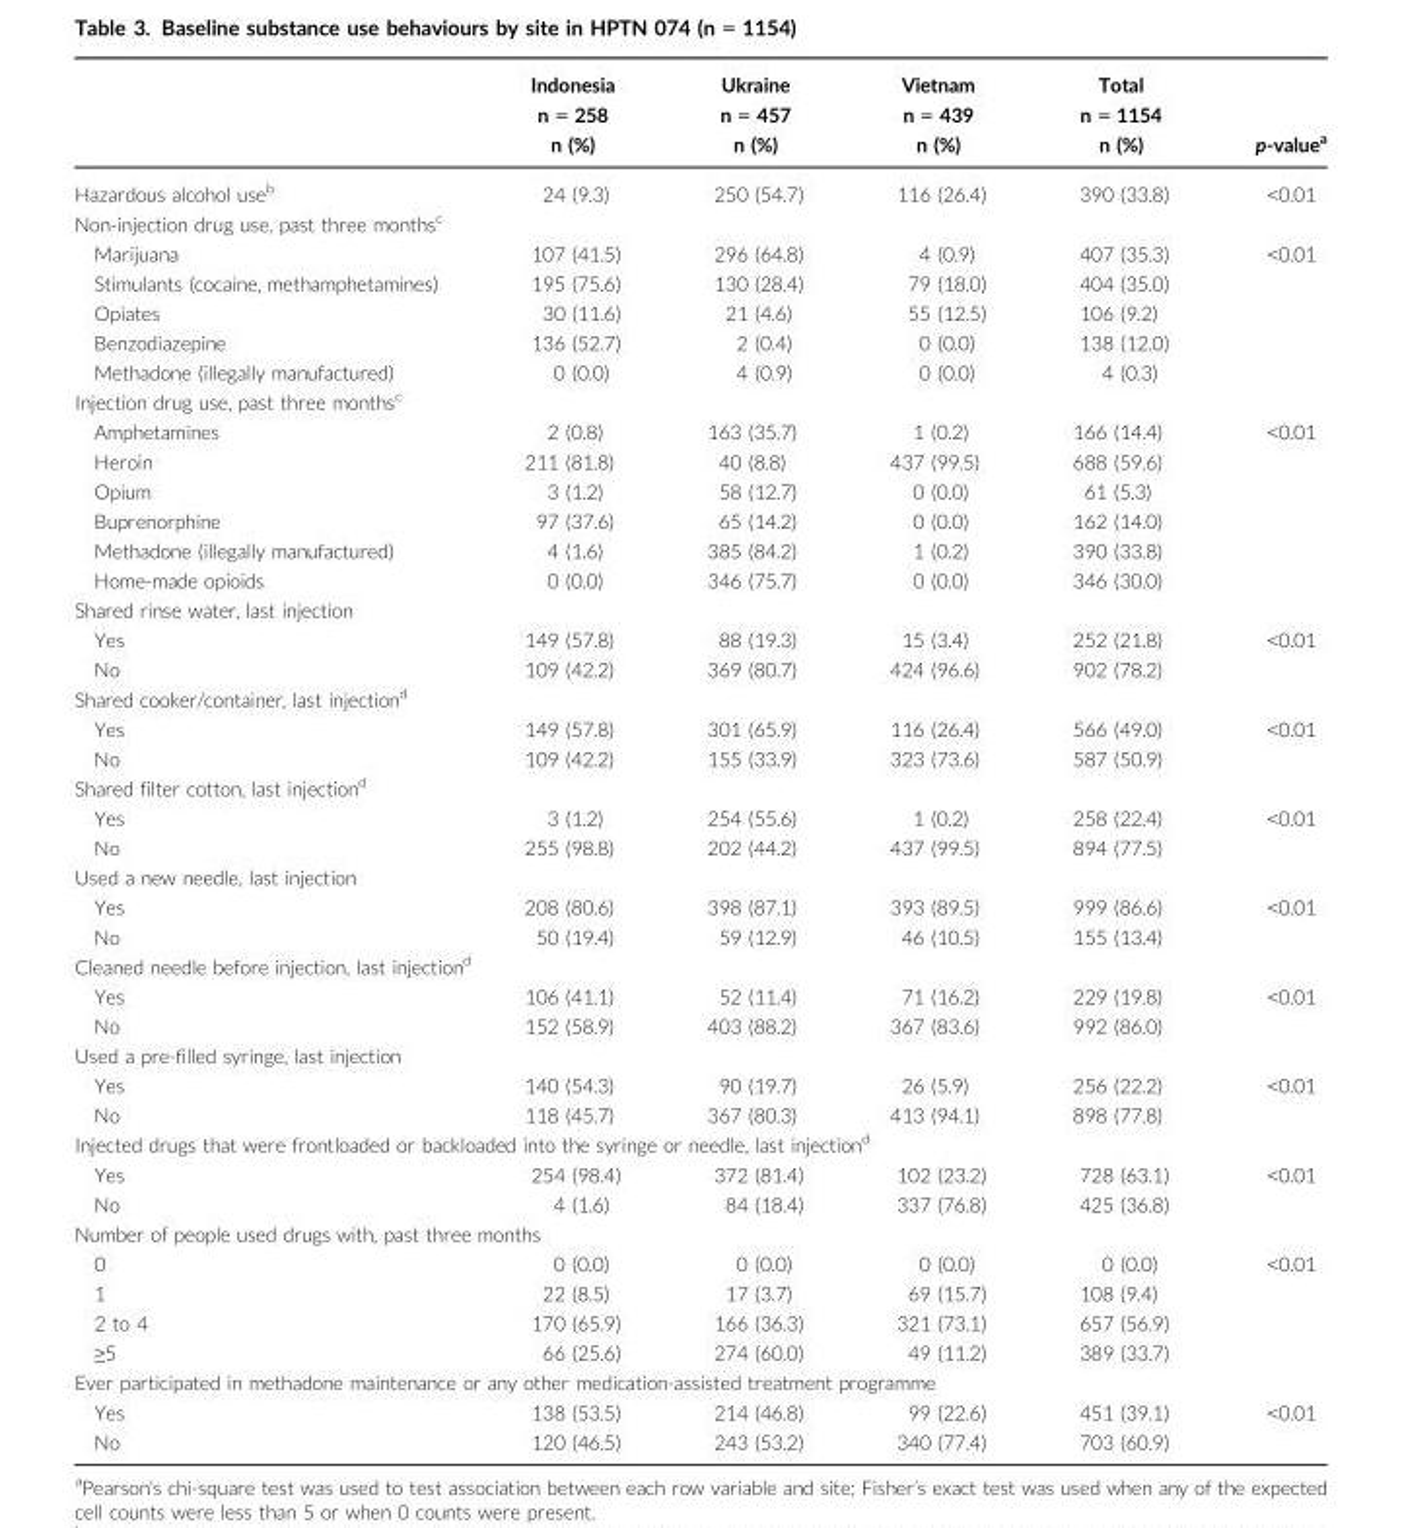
<table><thead><tr><td rowspan="2"></td><td rowspan="2">Indonesia n = 258 n (%)</td><td rowspan="2">Ukraine n = 457 n (%)</td><td rowspan="2">Vietnam n = 439 n (%)</td><td rowspan="2">Total n = 1154 n (%)</td><td rowspan="2">p-value<sup>a</sup></td></tr><tr></tr></thead><tbody><tr><td>Hazardous alcohol use<sup>b</sup></td><td>24 (9.3)</td><td>250 (54.7)</td><td>116 (26.4)</td><td>390 (33.8)</td><td>&lt;0.01</td></tr><tr><td colspan="6">Non-injection drug use, past three months<sup>c</sup></td></tr><tr><td>Marijuana</td><td>107 (41.5)</td><td>296 (64.8)</td><td>4 (0.9)</td><td>407 (35.3)</td><td rowspan="5">&lt;0.01</td></tr><tr><td>Stimulants (cocaine, methamphetamines)</td><td>195 (75.6)</td><td>130 (28.4)</td><td>79 (18.0)</td><td>404 (35.0)</td></tr><tr><td>Opiates</td><td>30 (11.6)</td><td>21 (4.6)</td><td>55 (12.5)</td><td>106 (9.2)</td></tr><tr><td>Benzodiazepine</td><td>136 (52.7)</td><td>2 (0.4)</td><td>0 (0.0)</td><td>138 (12.0)</td></tr><tr><td>Methadone (illegally manufactured)</td><td>0 (0.0)</td><td>4 (0.9)</td><td>0 (0.0)</td><td>4 (0.3)</td></tr><tr><td colspan="6">Injection drug use, past three months<sup>c</sup></td></tr><tr><td>Amphetamines</td><td>2 (0.8)</td><td>163 (35.7)</td><td>1 (0.2)</td><td>166 (14.4)</td><td rowspan="6">&lt;0.01</td></tr><tr><td>Heroin</td><td>211 (81.8)</td><td>40 (8.8)</td><td>437 (99.5)</td><td>688 (59.6)</td></tr><tr><td>Opium</td><td>3 (1.2)</td><td>58 (12.7)</td><td>0 (0.0)</td><td>61 (5.3)</td></tr><tr><td>Buprenorphine</td><td>97 (37.6)</td><td>65 (14.2)</td><td>0 (0.0)</td><td>162 (14.0)</td></tr><tr><td>Methadone (illegally manufactured)</td><td>4 (1.6)</td><td>385 (84.2)</td><td>1 (0.2)</td><td>390 (33.8)</td></tr><tr><td>Home-made opioids</td><td>0 (0.0)</td><td>346 (75.7)</td><td>0 (0.0)</td><td>346 (30.0)</td></tr><tr><td colspan="6">Shared rinse water, last injection</td></tr><tr><td>Yes</td><td>149 (57.8)</td><td>88 (19.3)</td><td>15 (3.4)</td><td>252 (21.8)</td><td rowspan="2">&lt;0.01</td></tr><tr><td>No</td><td>109 (42.2)</td><td>369 (80.7)</td><td>424 (96.6)</td><td>902 (78.2)</td></tr><tr><td colspan="6">Shared cooker/container, last injection<sup>d</sup></td></tr><tr><td>Yes</td><td>149 (57.8)</td><td>301 (65.9)</td><td>116 (26.4)</td><td>566 (49.0)</td><td rowspan="2">&lt;0.01</td></tr><tr><td>No</td><td>109 (42.2)</td><td>155 (33.9)</td><td>323 (73.6)</td><td>587 (50.9)</td></tr><tr><td colspan="6">Shared filter cotton, last injection<sup>d</sup></td></tr><tr><td>Yes</td><td>3 (1.2)</td><td>254 (55.6)</td><td>1 (0.2)</td><td>258 (22.4)</td><td rowspan="2">&lt;0.01</td></tr><tr><td>No</td><td>255 (98.8)</td><td>202 (44.2)</td><td>437 (99.5)</td><td>894 (77.5)</td></tr><tr><td colspan="6">Used a new needle, last injection</td></tr><tr><td>Yes</td><td>208 (80.6)</td><td>398 (87.1)</td><td>393 (89.5)</td><td>999 (86.6)</td><td rowspan="2">&lt;0.01</td></tr><tr><td>No</td><td>50 (19.4)</td><td>59 (12.9)</td><td>46 (10.5)</td><td>155 (13.4)</td></tr><tr><td colspan="6">Cleaned needle before injection, last injection<sup>d</sup></td></tr><tr><td>Yes</td><td>106 (41.1)</td><td>52 (11.4)</td><td>71 (16.2)</td><td>229 (19.8)</td><td rowspan="2">&lt;0.01</td></tr><tr><td>No</td><td>152 (58.9)</td><td>403 (88.2)</td><td>367 (83.6)</td><td>992 (86.0)</td></tr><tr><td colspan="6">Used a pre-filled syringe, last injection</td></tr><tr><td>Yes</td><td>140 (54.3)</td><td>90 (19.7)</td><td>26 (5.9)</td><td>256 (22.2)</td><td rowspan="2">&lt;0.01</td></tr><tr><td>No</td><td>118 (45.7)</td><td>367 (80.3)</td><td>413 (94.1)</td><td>898 (77.8)</td></tr><tr><td colspan="6">Injected drugs that were frontloaded or backloaded into the syringe or needle, last injection<sup>d</sup></td></tr><tr><td>Yes</td><td>254 (98.4)</td><td>372 (81.4)</td><td>102 (23.2)</td><td>728 (63.1)</td><td rowspan="2">&lt;0.01</td></tr><tr><td>No</td><td>4 (1.6)</td><td>84 (18.4)</td><td>337 (76.8)</td><td>425 (36.8)</td></tr><tr><td colspan="6">Number of people used drugs with, past three months</td></tr><tr><td>0</td><td>0 (0.0)</td><td>0 (0.0)</td><td>0 (0.0)</td><td>0 (0.0)</td><td rowspan="4">&lt;0.01</td></tr><tr><td>1</td><td>22 (8.5)</td><td>17 (3.7)</td><td>69 (15.7)</td><td>108 (9.4)</td></tr><tr><td>2 to 4</td><td>170 (65.9)</td><td>166 (36.3)</td><td>321 (73.1)</td><td>657 (56.9)</td></tr><tr><td>≥5</td><td>66 (25.6)</td><td>274 (60.0)</td><td>49 (11.2)</td><td>389 (33.7)</td></tr><tr><td colspan="6">Ever participated in methadone maintenance or any other medication-assisted treatment programme</td></tr><tr><td>Yes</td><td>138 (53.5)</td><td>214 (46.8)</td><td>99 (22.6)</td><td>451 (39.1)</td><td rowspan="2">&lt;0.01</td></tr><tr><td>No</td><td>120 (46.5)</td><td>243 (53.2)</td><td>340 (77.4)</td><td>703 (60.9)</td></tr></tbody></table>